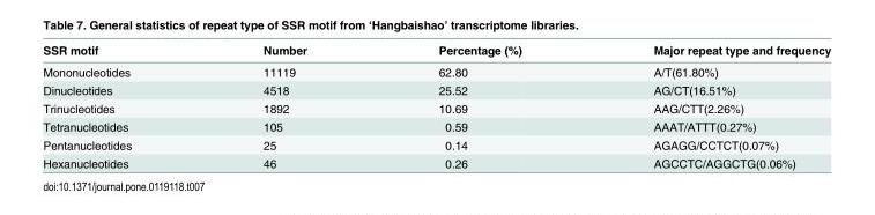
<table><thead><tr><td>SSR motif</td><td>Number</td><td>Percentage (%)</td><td>Major repeat type and frequency</td></tr></thead><tbody><tr><td>Mononucleotides</td><td>11119</td><td>62.80</td><td>A/T(61.80%)</td></tr><tr><td>Dinucleotides</td><td>4518</td><td>25.52</td><td>AG/CT(16.51%)</td></tr><tr><td>Trinucleotides</td><td>1892</td><td>10.69</td><td>AAG/CTT(2.26%)</td></tr><tr><td>Tetranucleotides</td><td>105</td><td>0.59</td><td>AAAT/ATTT(0.27%)</td></tr><tr><td>Pentanucleotides</td><td>25</td><td>0.14</td><td>AGAGG/CCTCT(0.07%)</td></tr><tr><td>Hexanucleotides</td><td>46</td><td>0.26</td><td>AGCCTC/AGGCTG(0.06%)</td></tr></tbody></table>